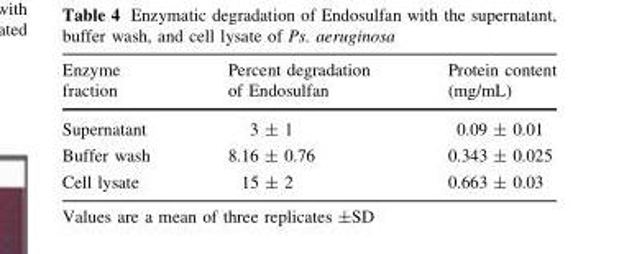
<table><thead><tr><td>Enzyme fraction</td><td>Percent degradation of Endosulfan</td><td>Protein content (mg/mL)</td></tr></thead><tbody><tr><td>Supernatant</td><td>3 ± 1</td><td>0.09 ± 0.01</td></tr><tr><td>Buffer wash</td><td>8.16 ± 0.76</td><td>0.343 ± 0.025</td></tr><tr><td>Cell lysate</td><td>15 ± 2</td><td>0.663 ± 0.03</td></tr></tbody></table>